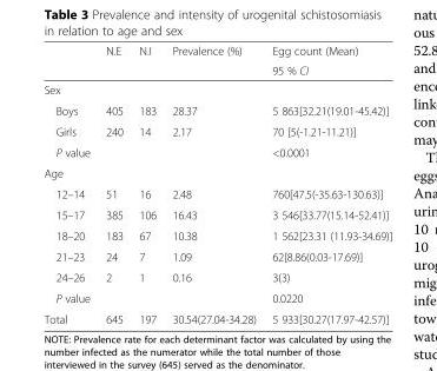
<table><thead><tr><td rowspan="2"></td><td rowspan="2">N.E</td><td rowspan="2">N.I</td><td rowspan="2">Prevalence (%)</td><td rowspan="2">Egg count (Mean) 95 % CI</td></tr><tr></tr></thead><tbody><tr><td colspan="5">Sex</td></tr><tr><td>Boys</td><td>405</td><td>183</td><td>28.37</td><td>5 863[32.21(19.01-45.42)]</td></tr><tr><td>Girls</td><td>240</td><td>14</td><td>2.17</td><td>70 [5(-1.21-11.21)]</td></tr><tr><td>P value</td><td></td><td></td><td></td><td>&lt;0.0001</td></tr><tr><td colspan="5">Age</td></tr><tr><td>12–14</td><td>51</td><td>16</td><td>2.48</td><td>760[47.5(-35.63-130.63)]</td></tr><tr><td>15–17</td><td>385</td><td>106</td><td>16.43</td><td>3 546[33.77(15.14-52.41)]</td></tr><tr><td>18–20</td><td>183</td><td>67</td><td>10.38</td><td>1 562[23.31 (11.93-34.69)]</td></tr><tr><td>21–23</td><td>24</td><td>7</td><td>1.09</td><td>62[8.86(0.03-17.69)]</td></tr><tr><td>24–26</td><td>2</td><td>1</td><td>0.16</td><td>3(3)</td></tr><tr><td>P value</td><td></td><td></td><td></td><td>0.0220</td></tr><tr><td>Total</td><td>645</td><td>197</td><td>30.54(27.04-34.28)</td><td>5 933[30.27(17.97-42.57)]</td></tr></tbody></table>